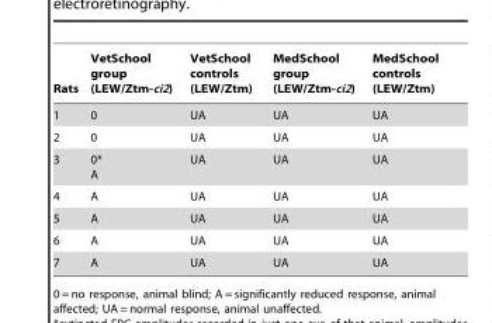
<table><thead><tr><td>Rats</td><td>VetSchool group (LEW/Ztm-ci2)</td><td>VetSchool controls (LEW/Ztm)</td><td>MedSchool group (LEW/Ztm-ci2)</td><td>MedSchool controls (LEW/Ztm)</td></tr></thead><tbody><tr><td>1</td><td>0</td><td>UA</td><td>UA</td><td>UA</td></tr><tr><td>2</td><td>0</td><td>UA</td><td>UA</td><td>UA</td></tr><tr><td>3</td><td>0* A</td><td>UA</td><td>UA</td><td>UA</td></tr><tr><td>4</td><td>A</td><td>UA</td><td>UA</td><td>UA</td></tr><tr><td>5</td><td>A</td><td>UA</td><td>UA</td><td>UA</td></tr><tr><td>6</td><td>A</td><td>UA</td><td>UA</td><td>UA</td></tr><tr><td>7</td><td>A</td><td>UA</td><td>UA</td><td>UA</td></tr></tbody></table>